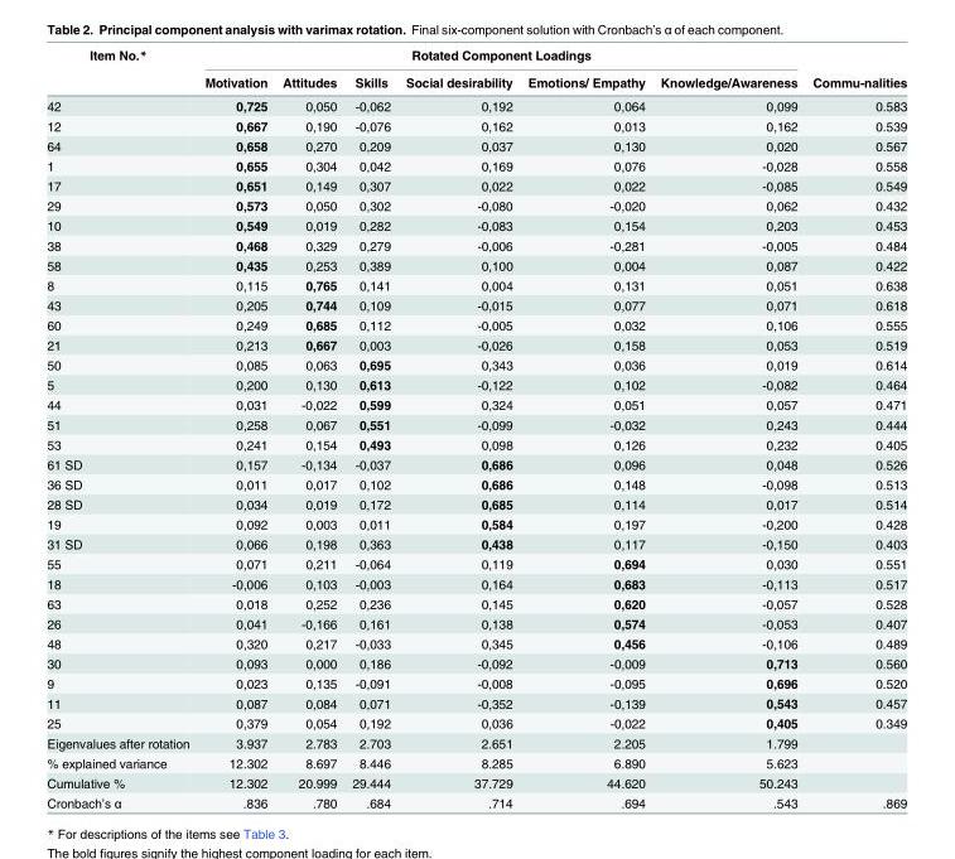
<table><thead><tr><td rowspan="2">Item No.*</td><td colspan="6">Rotated Component Loadings</td><td rowspan="2">Commu-nalities</td></tr><tr><td>Motivation</td><td>Attitudes</td><td>Skills</td><td>Social desirability</td><td>Emotions/ Empathy</td><td>Knowledge/Awareness</td></tr></thead><tbody><tr><td>42</td><td>0,725</td><td>0,050</td><td>-0,062</td><td>0,192</td><td>0,064</td><td>0,099</td><td>0.583</td></tr><tr><td>12</td><td>0,667</td><td>0,190</td><td>-0,076</td><td>0,162</td><td>0,013</td><td>0,162</td><td>0.539</td></tr><tr><td>64</td><td>0,658</td><td>0,270</td><td>0,209</td><td>0,037</td><td>0,130</td><td>0,020</td><td>0.567</td></tr><tr><td>1</td><td>0,655</td><td>0,304</td><td>0,042</td><td>0,169</td><td>0,076</td><td>-0,028</td><td>0.558</td></tr><tr><td>17</td><td>0,651</td><td>0,149</td><td>0,307</td><td>0,022</td><td>0,022</td><td>-0,085</td><td>0.549</td></tr><tr><td>29</td><td>0,573</td><td>0,050</td><td>0,302</td><td>-0,080</td><td>-0,020</td><td>0,062</td><td>0.432</td></tr><tr><td>10</td><td>0,549</td><td>0,019</td><td>0,282</td><td>-0,083</td><td>0,154</td><td>0,203</td><td>0.453</td></tr><tr><td>38</td><td>0,468</td><td>0,329</td><td>0,279</td><td>-0,006</td><td>-0,281</td><td>-0,005</td><td>0.484</td></tr><tr><td>58</td><td>0,435</td><td>0,253</td><td>0,389</td><td>0,100</td><td>0,004</td><td>0,087</td><td>0.422</td></tr><tr><td>8</td><td>0,115</td><td>0,765</td><td>0,141</td><td>0,004</td><td>0,131</td><td>0,051</td><td>0.638</td></tr><tr><td>43</td><td>0,205</td><td>0,744</td><td>0,109</td><td>-0,015</td><td>0,077</td><td>0,071</td><td>0.618</td></tr><tr><td>60</td><td>0,249</td><td>0,685</td><td>0,112</td><td>-0,005</td><td>0,032</td><td>0,106</td><td>0.555</td></tr><tr><td>21</td><td>0,213</td><td>0,667</td><td>0,003</td><td>-0,026</td><td>0,158</td><td>0,053</td><td>0.519</td></tr><tr><td>50</td><td>0,085</td><td>0,063</td><td>0,695</td><td>0,343</td><td>0,036</td><td>0,019</td><td>0.614</td></tr><tr><td>5</td><td>0,200</td><td>0,130</td><td>0,613</td><td>-0,122</td><td>0,102</td><td>-0,082</td><td>0.464</td></tr><tr><td>44</td><td>0,031</td><td>-0,022</td><td>0,599</td><td>0,324</td><td>0,051</td><td>0,057</td><td>0.471</td></tr><tr><td>51</td><td>0,258</td><td>0,067</td><td>0,551</td><td>-0,099</td><td>-0,032</td><td>0,243</td><td>0.444</td></tr><tr><td>53</td><td>0,241</td><td>0,154</td><td>0,493</td><td>0,098</td><td>0,126</td><td>0,232</td><td>0.405</td></tr><tr><td>61 SD</td><td>0,157</td><td>-0,134</td><td>-0,037</td><td>0,686</td><td>0,096</td><td>0,048</td><td>0.526</td></tr><tr><td>36 SD</td><td>0,011</td><td>0,017</td><td>0,102</td><td>0,686</td><td>0,148</td><td>-0,098</td><td>0.513</td></tr><tr><td>28 SD</td><td>0,034</td><td>0,019</td><td>0,172</td><td>0,685</td><td>0,114</td><td>0,017</td><td>0.514</td></tr><tr><td>19</td><td>0,092</td><td>0,003</td><td>0,011</td><td>0,584</td><td>0,197</td><td>-0,200</td><td>0.428</td></tr><tr><td>31 SD</td><td>0,066</td><td>0,198</td><td>0,363</td><td>0,438</td><td>0,117</td><td>-0,150</td><td>0.403</td></tr><tr><td>55</td><td>0,071</td><td>0,211</td><td>-0,064</td><td>0,119</td><td>0,694</td><td>0,030</td><td>0.551</td></tr><tr><td>18</td><td>-0,006</td><td>0,103</td><td>-0,003</td><td>0,164</td><td>0,683</td><td>-0,113</td><td>0.517</td></tr><tr><td>63</td><td>0,018</td><td>0,252</td><td>0,236</td><td>0,145</td><td>0,620</td><td>-0,057</td><td>0.528</td></tr><tr><td>26</td><td>0,041</td><td>-0,166</td><td>0,161</td><td>0,138</td><td>0,574</td><td>-0,053</td><td>0.407</td></tr><tr><td>48</td><td>0,320</td><td>0,217</td><td>-0,033</td><td>0,345</td><td>0,456</td><td>-0,106</td><td>0.489</td></tr><tr><td>30</td><td>0,093</td><td>0,000</td><td>0,186</td><td>-0,092</td><td>-0,009</td><td>0,713</td><td>0.560</td></tr><tr><td>9</td><td>0,023</td><td>0,135</td><td>-0,091</td><td>-0,008</td><td>-0,095</td><td>0,696</td><td>0.520</td></tr><tr><td>11</td><td>0,087</td><td>0,084</td><td>0,071</td><td>-0,352</td><td>-0,139</td><td>0,543</td><td>0.457</td></tr><tr><td>25</td><td>0,379</td><td>0,054</td><td>0,192</td><td>0,036</td><td>-0,022</td><td>0,405</td><td>0.349</td></tr><tr><td>Eigenvalues after rotation</td><td>3.937</td><td>2.783</td><td>2.703</td><td>2.651</td><td>2.205</td><td>1.799</td><td></td></tr><tr><td>% explained variance</td><td>12.302</td><td>8.697</td><td>8.446</td><td>8.285</td><td>6.890</td><td>5.623</td><td></td></tr><tr><td>Cumulative %</td><td>12.302</td><td>20.999</td><td>29.444</td><td>37.729</td><td>44.620</td><td>50.243</td><td></td></tr><tr><td>Cronbach’s α</td><td>.836</td><td>.780</td><td>.684</td><td>.714</td><td>.694</td><td>.543</td><td>.869</td></tr></tbody></table>